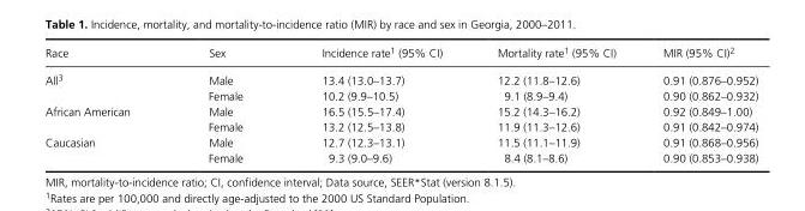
<table><thead><tr><td>Race</td><td>Sex</td><td>Incidence rate1 (95% CI)</td><td>Mortality rate1 (95% CI)</td><td>MIR (95% CI)2</td></tr></thead><tbody><tr><td rowspan="2">All3</td><td>Male</td><td>13.4 (13.0–13.7)</td><td>12.2 (11.8–12.6)</td><td>0.91 (0.876–0.952)</td></tr><tr><td>Female</td><td>10.2 (9.9–10.5)</td><td>9.1 (8.9–9.4)</td><td>0.90 (0.862–0.932)</td></tr><tr><td rowspan="2">African American</td><td>Male</td><td>16.5 (15.5–17.4)</td><td>15.2 (14.3–16.2)</td><td>0.92 (0.849–1.00)</td></tr><tr><td>Female</td><td>13.2 (12.5–13.8)</td><td>11.9 (11.3–12.6)</td><td>0.91 (0.842–0.974)</td></tr><tr><td rowspan="2">Caucasian</td><td>Male</td><td>12.7 (12.3–13.1)</td><td>11.5 (11.1–11.9)</td><td>0.91 (0.868–0.956)</td></tr><tr><td>Female</td><td>9.3 (9.0–9.6)</td><td>8.4 (8.1–8.6)</td><td>0.90 (0.853–0.938)</td></tr></tbody></table>